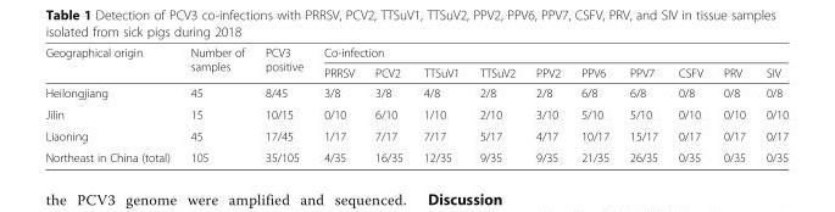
<table><thead><tr><td rowspan="2">Geographical origin</td><td rowspan="2">Number of samples</td><td rowspan="2">PCV3 positive</td><td colspan="10">Co-infection</td></tr><tr><td>PRRSV</td><td>PCV2</td><td>TTSuV1</td><td>TTSuV2</td><td>PPV2</td><td>PPV6</td><td>PPV7</td><td>CSFV</td><td>PRV</td><td>SIV</td></tr></thead><tbody><tr><td>Heilongjiang</td><td>45</td><td>8/45</td><td>3/8</td><td>3/8</td><td>4/8</td><td>2/8</td><td>2/8</td><td>6/8</td><td>6/8</td><td>0/8</td><td>0/8</td><td>0/8</td></tr><tr><td>Jilin</td><td>15</td><td>10/15</td><td>0/10</td><td>6/10</td><td>1/10</td><td>2/10</td><td>3/10</td><td>5/10</td><td>5/10</td><td>0/10</td><td>0/10</td><td>0/10</td></tr><tr><td>Liaoning</td><td>45</td><td>17/45</td><td>1/17</td><td>7/17</td><td>7/17</td><td>5/17</td><td>4/17</td><td>10/17</td><td>15/17</td><td>0/17</td><td>0/17</td><td>0/17</td></tr><tr><td>Northeast in China (total)</td><td>105</td><td>35/105</td><td>4/35</td><td>16/35</td><td>12/35</td><td>9/35</td><td>9/35</td><td>21/35</td><td>26/35</td><td>0/35</td><td>0/35</td><td>0/35</td></tr></tbody></table>